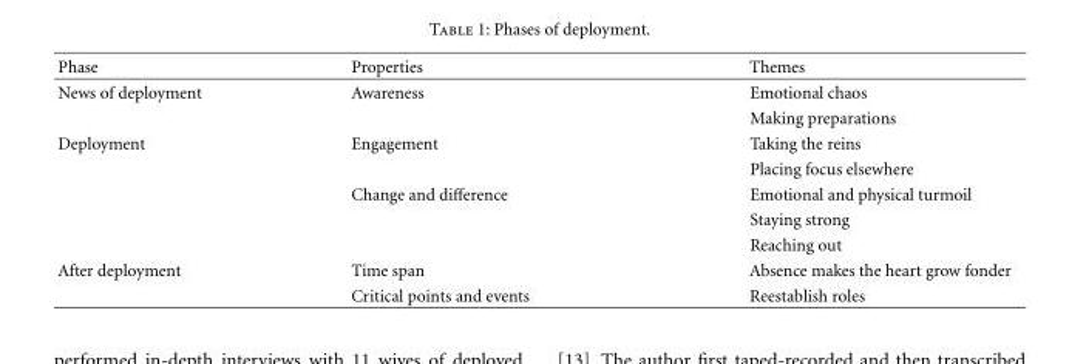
<table><thead><tr><td>Phase</td><td>Properties</td><td>Themes</td></tr></thead><tbody><tr><td rowspan="2">News of deployment</td><td>Awareness</td><td>Emotional chaos</td></tr><tr><td></td><td>Making preparations</td></tr><tr><td rowspan="5">Deployment</td><td>Engagement</td><td>Taking the reins</td></tr><tr><td></td><td>Placing focus elsewhere</td></tr><tr><td>Change and difference</td><td>Emotional and physical turmoil</td></tr><tr><td></td><td>Staying strong</td></tr><tr><td></td><td>Reaching out</td></tr><tr><td rowspan="2">After deployment</td><td>Time span</td><td>Absence makes the heart grow fonder</td></tr><tr><td>Critical points and events</td><td>Reestablish roles</td></tr></tbody></table>